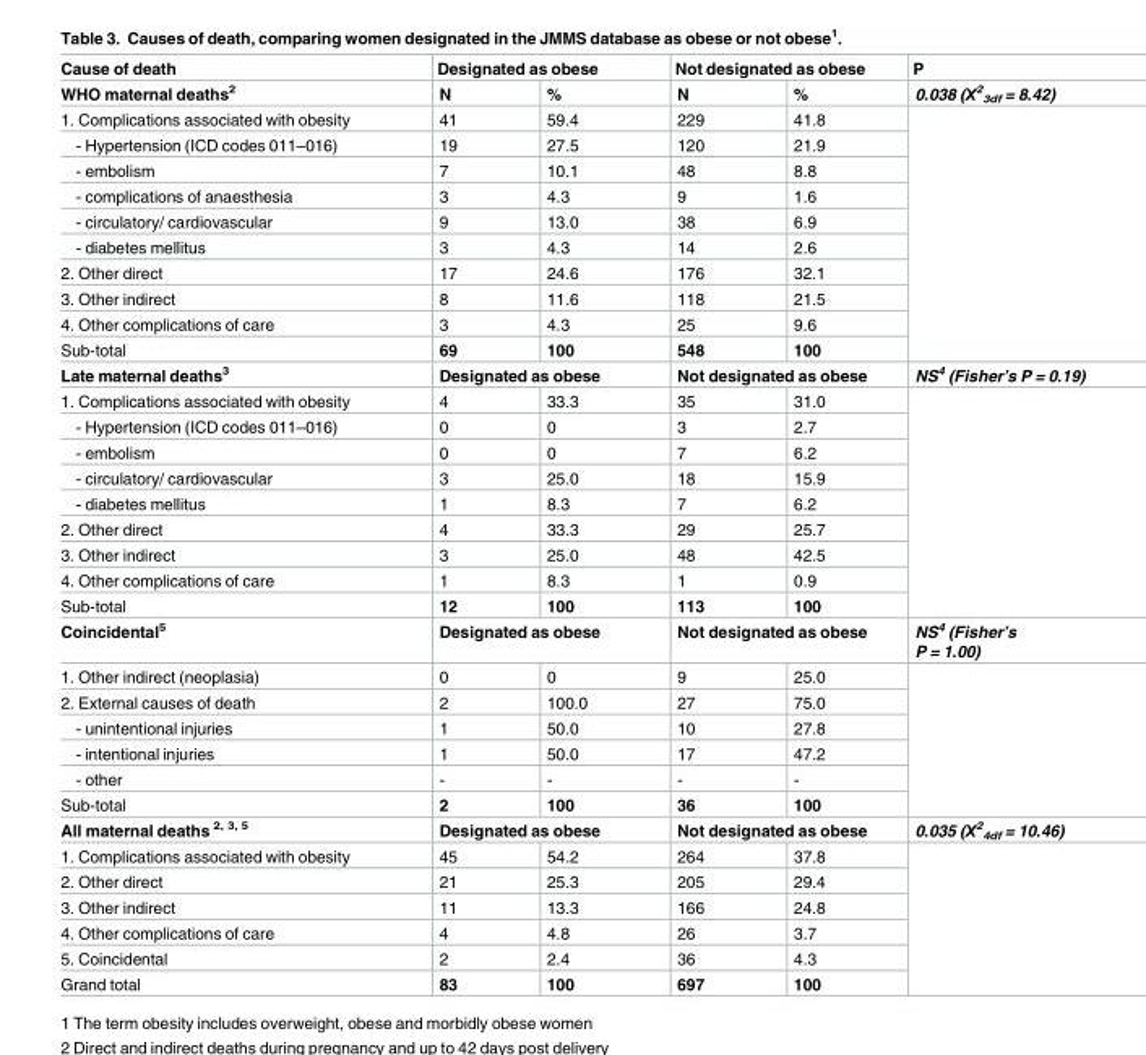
<table><thead><tr><td rowspan="2">Cause of death WHO maternal deaths<sup>2</sup></td><td colspan="2">Designated as obese</td><td colspan="2">Not designated as obese</td><td rowspan="2">P 0.038 (Χ<sup>2</sup> <sub>3df</sub> = 8.42)</td></tr><tr><td>N</td><td>%</td><td>N</td><td>%</td></tr></thead><tbody><tr><td>1. Complications associated with obesity</td><td>41</td><td>59.4</td><td>229</td><td>41.8</td><td rowspan="10"></td></tr><tr><td>- Hypertension (ICD codes 011–016)</td><td>19</td><td>27.5</td><td>120</td><td>21.9</td></tr><tr><td>- embolism</td><td>7</td><td>10.1</td><td>48</td><td>8.8</td></tr><tr><td>- complications of anaesthesia</td><td>3</td><td>4.3</td><td>9</td><td>1.6</td></tr><tr><td>- circulatory/ cardiovascular</td><td>9</td><td>13.0</td><td>38</td><td>6.9</td></tr><tr><td>- diabetes mellitus</td><td>3</td><td>4.3</td><td>14</td><td>2.6</td></tr><tr><td>2. Other direct</td><td>17</td><td>24.6</td><td>176</td><td>32.1</td></tr><tr><td>3. Other indirect</td><td>8</td><td>11.6</td><td>118</td><td>21.5</td></tr><tr><td>4. Other complications of care</td><td>3</td><td>4.3</td><td>25</td><td>9.6</td></tr><tr><td>Sub-total</td><td>69</td><td>100</td><td>548</td><td>100</td></tr><tr><td>Late maternal deaths<sup>3</sup></td><td colspan="2">Designated as obese</td><td colspan="2">Not designated as obese</td><td>NS<sup>4</sup> (Fisher’s P = 0.19)</td></tr><tr><td>1. Complications associated with obesity</td><td>4</td><td>33.3</td><td>35</td><td>31.0</td><td rowspan="9"></td></tr><tr><td>- Hypertension (ICD codes 011–016)</td><td>0</td><td>0</td><td>3</td><td>2.7</td></tr><tr><td>- embolism</td><td>0</td><td>0</td><td>7</td><td>6.2</td></tr><tr><td>- circulatory/ cardiovascular</td><td>3</td><td>25.0</td><td>18</td><td>15.9</td></tr><tr><td>- diabetes mellitus</td><td>1</td><td>8.3</td><td>7</td><td>6.2</td></tr><tr><td>2. Other direct</td><td>4</td><td>33.3</td><td>29</td><td>25.7</td></tr><tr><td>3. Other indirect</td><td>3</td><td>25.0</td><td>48</td><td>42.5</td></tr><tr><td>4. Other complications of care</td><td>1</td><td>8.3</td><td>1</td><td>0.9</td></tr><tr><td>Sub-total</td><td>12</td><td>100</td><td>113</td><td>100</td></tr><tr><td>Coincidental<sup>5</sup></td><td colspan="2">Designated as obese</td><td colspan="2">Not designated as obese</td><td>NS<sup>4</sup> (Fisher’s P = 1.00)</td></tr><tr><td>1. Other indirect (neoplasia)</td><td>0</td><td>0</td><td>9</td><td>25.0</td><td rowspan="6"></td></tr><tr><td>2. External causes of death</td><td>2</td><td>100.0</td><td>27</td><td>75.0</td></tr><tr><td>- unintentional injuries</td><td>1</td><td>50.0</td><td>10</td><td>27.8</td></tr><tr><td>- intentional injuries</td><td>1</td><td>50.0</td><td>17</td><td>47.2</td></tr><tr><td>- other</td><td>-</td><td>-</td><td>-</td><td>-</td></tr><tr><td>Sub-total</td><td>2</td><td>100</td><td>36</td><td>100</td></tr><tr><td>All maternal deaths <sup>2, 3, 5</sup></td><td colspan="2">Designated as obese</td><td colspan="2">Not designated as obese</td><td>0.035 (Χ<sup>2</sup> <sub>4df</sub> = 10.46)</td></tr><tr><td>1. Complications associated with obesity</td><td>45</td><td>54.2</td><td>264</td><td>37.8</td><td rowspan="6"></td></tr><tr><td>2. Other direct</td><td>21</td><td>25.3</td><td>205</td><td>29.4</td></tr><tr><td>3. Other indirect</td><td>11</td><td>13.3</td><td>166</td><td>24.8</td></tr><tr><td>4. Other complications of care</td><td>4</td><td>4.8</td><td>26</td><td>3.7</td></tr><tr><td>5. Coincidental</td><td>2</td><td>2.4</td><td>36</td><td>4.3</td></tr><tr><td>Grand total</td><td>83</td><td>100</td><td>697</td><td>100</td></tr></tbody></table>